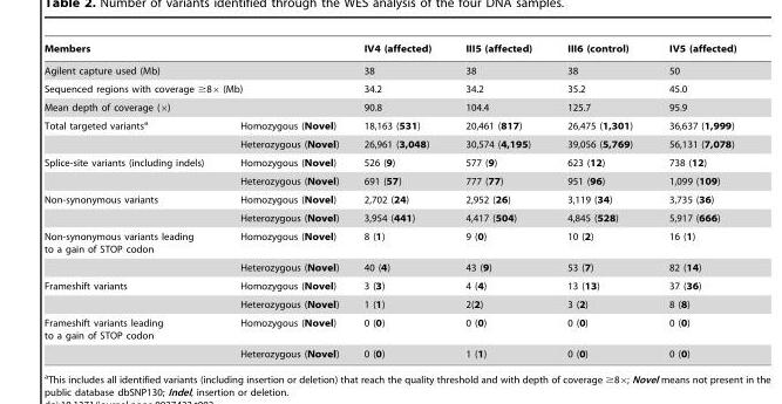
<table><thead><tr><td colspan="2">Members</td><td>IV4 (affected)</td><td>III5 (affected)</td><td>III6 (control)</td><td>IV5 (affected)</td></tr></thead><tbody><tr><td colspan="2">Agilent capture used (Mb)</td><td>38</td><td>38</td><td>38</td><td>50</td></tr><tr><td colspan="2">Sequenced regions with coverage ≥8× (Mb)</td><td>34.2</td><td>34.2</td><td>35.2</td><td>45.0</td></tr><tr><td colspan="2">Mean depth of coverage (×)</td><td>90.8</td><td>104.4</td><td>125.7</td><td>95.9</td></tr><tr><td rowspan="2">Total targeted variants<sup>a</sup></td><td>Homozygous (Novel)</td><td>18,163 (531)</td><td>20,461 (817)</td><td>26,475 (1,301)</td><td>36,637 (1,999)</td></tr><tr><td>Heterozygous (Novel)</td><td>26,961 (3,048)</td><td>30,574 (4,195)</td><td>39,056 (5,769)</td><td>56,131 (7,078)</td></tr><tr><td rowspan="2">Splice-site variants (including indels)</td><td>Homozygous (Novel)</td><td>526 (9)</td><td>577 (9)</td><td>623 (12)</td><td>738 (12)</td></tr><tr><td>Heterozygous (Novel)</td><td>691 (57)</td><td>777 (77)</td><td>951 (96)</td><td>1,099 (109)</td></tr><tr><td rowspan="2">Non-synonymous variants</td><td>Homozygous (Novel)</td><td>2,702 (24)</td><td>2,952 (26)</td><td>3,119 (34)</td><td>3,735 (36)</td></tr><tr><td>Heterozygous (Novel)</td><td>3,954 (441)</td><td>4,417 (504)</td><td>4,845 (528)</td><td>5,917 (666)</td></tr><tr><td rowspan="2">Non-synonymous variants leading to a gain of STOP codon</td><td>Homozygous (Novel)</td><td>8 (1)</td><td>9 (0)</td><td>10 (2)</td><td>16 (1)</td></tr><tr><td>Heterozygous (Novel)</td><td>40 (4)</td><td>43 (9)</td><td>53 (7)</td><td>82 (14)</td></tr><tr><td rowspan="2">Frameshift variants</td><td>Homozygous (Novel)</td><td>3 (3)</td><td>4 (4)</td><td>13 (13)</td><td>37 (36)</td></tr><tr><td>Heterozygous (Novel)</td><td>1 (1)</td><td>2(2)</td><td>3 (2)</td><td>8 (8)</td></tr><tr><td rowspan="2">Frameshift variants leading to a gain of STOP codon</td><td>Homozygous (Novel)</td><td>0 (0)</td><td>0 (0)</td><td>0 (0)</td><td>0 (0)</td></tr><tr><td>Heterozygous (Novel)</td><td>0 (0)</td><td>1 (1)</td><td>0 (0)</td><td>0 (0)</td></tr></tbody></table>